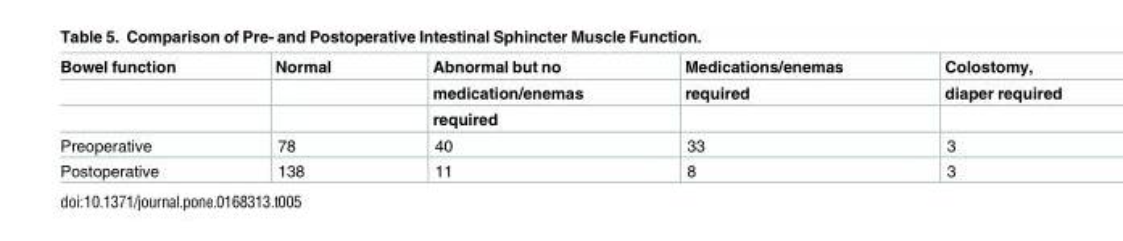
<table><thead><tr><td rowspan="3">Bowel function</td><td rowspan="3">Normal</td><td rowspan="3">Abnormal but no medication/enemas required</td><td rowspan="3">Medications/enemas required</td><td rowspan="3">Colostomy, diaper required</td></tr><tr></tr><tr></tr></thead><tbody><tr><td>Preoperative</td><td>78</td><td>40</td><td>33</td><td>3</td></tr><tr><td>Postoperative</td><td>138</td><td>11</td><td>8</td><td>3</td></tr></tbody></table>